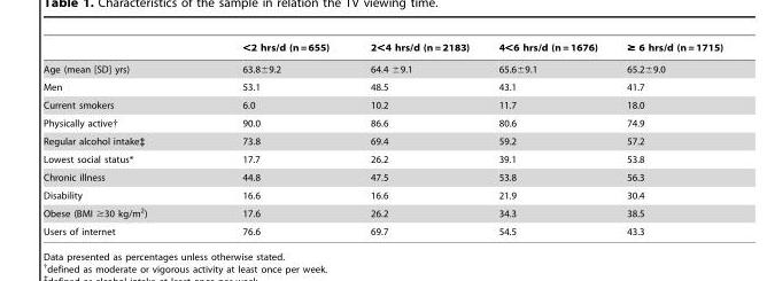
<table><thead><tr><td></td><td>&lt;2 hrs/d (n = 655)</td><td>2&lt;4 hrs/d (n = 2183)</td><td>4&lt;6 hrs/d (n = 1676)</td><td>≥ 6 hrs/d (n = 1715)</td></tr></thead><tbody><tr><td>Age (mean [SD] yrs)</td><td>63.8±9.2</td><td>64.4 ±9.1</td><td>65.6±9.1</td><td>65.2±9.0</td></tr><tr><td>Men</td><td>53.1</td><td>48.5</td><td>43.1</td><td>41.7</td></tr><tr><td>Current smokers</td><td>6.0</td><td>10.2</td><td>11.7</td><td>18.0</td></tr><tr><td>Physically active†</td><td>90.0</td><td>86.6</td><td>80.6</td><td>74.9</td></tr><tr><td>Regular alcohol intake‡</td><td>73.8</td><td>69.4</td><td>59.2</td><td>57.2</td></tr><tr><td>Lowest social status*</td><td>17.7</td><td>26.2</td><td>39.1</td><td>53.8</td></tr><tr><td>Chronic illness</td><td>44.8</td><td>47.5</td><td>53.8</td><td>56.3</td></tr><tr><td>Disability</td><td>16.6</td><td>16.6</td><td>21.9</td><td>30.4</td></tr><tr><td>Obese (BMI ≥30 kg/m<sup>2</sup>)</td><td>17.6</td><td>26.2</td><td>34.3</td><td>38.5</td></tr><tr><td>Users of internet</td><td>76.6</td><td>69.7</td><td>54.5</td><td>43.3</td></tr></tbody></table>